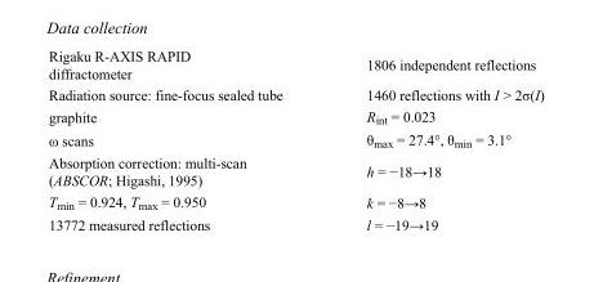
<table><tbody><tr><td>Rigaku R-AXIS RAPID diffractometer</td><td>1806 independent reflections</td></tr><tr><td>Radiation source: fine-focus sealed tube</td><td>1460 reflections with I &gt; 2σ(I)</td></tr><tr><td>graphite</td><td>R<sub>int</sub> = 0.023</td></tr><tr><td>ω scans</td><td>θ<sub>max</sub> = 27.4°, θ<sub>min</sub> = 3.1°</td></tr><tr><td>Absorption correction: multi-scan (ABSCOR; Higashi, 1995)</td><td>h = −18→18</td></tr><tr><td>T<sub>min</sub> = 0.924, T<sub>max</sub> = 0.950</td><td>k = −8→8</td></tr><tr><td>13772 measured reflections</td><td>l = −19→19</td></tr></tbody></table>